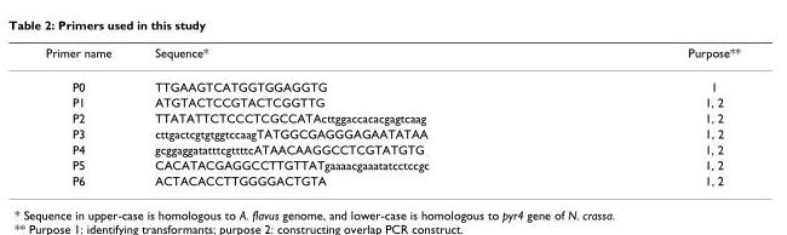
<table><thead><tr><td>Primer name</td><td>Sequence*</td><td>Purpose**</td></tr></thead><tbody><tr><td>P0</td><td>TTGAAGTCATGGTGGAGGTG</td><td>1</td></tr><tr><td>P1</td><td>ATGTACTCCGTACTCGGTTG</td><td>1, 2</td></tr><tr><td>P2</td><td>TTATATTCTCCCTCGCCATActtggaccacacgagtcaag</td><td>1, 2</td></tr><tr><td>P3</td><td>cttgactcgtgtggtccaagTATGGCGAGGGAGAATATAA</td><td>1, 2</td></tr><tr><td>P4</td><td>gcggaggatatttcgttttcATAACAAGGCCTCGTATGTG</td><td>1, 2</td></tr><tr><td>P5</td><td>CACATACGAGGCCTTGTTATgaaaacgaaatatcctccgc</td><td>1, 2</td></tr><tr><td>P6</td><td>ACTACACCTTGGGGACTGTA</td><td>1, 2</td></tr></tbody></table>